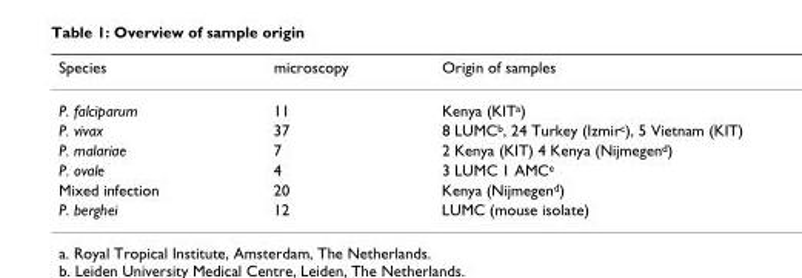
<table><thead><tr><td>Species</td><td>microscopy</td><td>Origin of samples</td></tr></thead><tbody><tr><td>P. falciparum</td><td>11</td><td>Kenya (KIT<sup>a</sup>)</td></tr><tr><td>P. vivax</td><td>37</td><td>8 LUMC<sup>b</sup>, 24 Turkey (Izmir<sup>c</sup>), 5 Vietnam (KIT)</td></tr><tr><td>P. malariae</td><td>7</td><td>2 Kenya (KIT) 4 Kenya (Nijmegen<sup>d</sup>)</td></tr><tr><td>P. ovale</td><td>4</td><td>3 LUMC 1 AMC<sup>e</sup></td></tr><tr><td>Mixed infection</td><td>20</td><td>Kenya (Nijmegen<sup>d</sup>)</td></tr><tr><td>P. berghei</td><td>12</td><td>LUMC (mouse isolate)</td></tr></tbody></table>